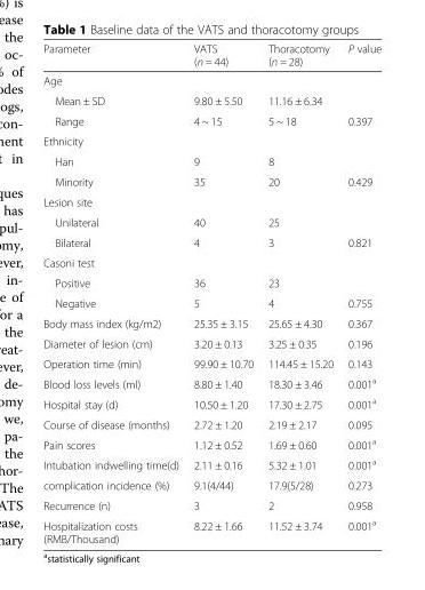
<table><thead><tr><td>Parameter</td><td>VATS (n = 44)</td><td>Thoracotomy (n = 28)</td><td>P value</td></tr></thead><tbody><tr><td colspan="4">Age</td></tr><tr><td>Mean ± SD</td><td>9.80 ± 5.50</td><td>11.16 ± 6.34</td><td></td></tr><tr><td>Range</td><td>4 ~ 15</td><td>5 ~ 18</td><td>0.397</td></tr><tr><td colspan="4">Ethnicity</td></tr><tr><td>Han</td><td>9</td><td>8</td><td></td></tr><tr><td>Minority</td><td>35</td><td>20</td><td>0.429</td></tr><tr><td colspan="4">Lesion site</td></tr><tr><td>Unilateral</td><td>40</td><td>25</td><td></td></tr><tr><td>Bilateral</td><td>4</td><td>3</td><td>0.821</td></tr><tr><td colspan="4">Casoni test</td></tr><tr><td>Positive</td><td>36</td><td>23</td><td></td></tr><tr><td>Negative</td><td>5</td><td>4</td><td>0.755</td></tr><tr><td>Body mass index (kg/m2)</td><td>25.35 ± 3.15</td><td>25.65 ± 4.30</td><td>0.367</td></tr><tr><td>Diameter of lesion (cm)</td><td>3.20 ± 0.13</td><td>3.25 ± 0.35</td><td>0.196</td></tr><tr><td>Operation time (min)</td><td>99.90 ± 10.70</td><td>114.45 ± 15.20</td><td>0.143</td></tr><tr><td>Blood loss levels (ml)</td><td>8.80 ± 1.40</td><td>18.30 ± 3.46</td><td>0.001<sup>a</sup></td></tr><tr><td>Hospital stay (d)</td><td>10.50 ± 1.20</td><td>17.30 ± 2.75</td><td>0.001<sup>a</sup></td></tr><tr><td>Course of disease (months)</td><td>2.72 ± 1.20</td><td>2.19 ± 2.17</td><td>0.095</td></tr><tr><td>Pain scores</td><td>1.12 ± 0.52</td><td>1.69 ± 0.60</td><td>0.001<sup>a</sup></td></tr><tr><td>Intubation indwelling time(d)</td><td>2.11 ± 0.16</td><td>5.32 ± 1.01</td><td>0.001<sup>a</sup></td></tr><tr><td>complication incidence (%)</td><td>9.1(4/44)</td><td>17.9(5/28)</td><td>0.273</td></tr><tr><td>Recurrence (n)</td><td>3</td><td>2</td><td>0.958</td></tr><tr><td>Hospitalization costs (RMB/Thousand)</td><td>8.22 ± 1.66</td><td>11.52 ± 3.74</td><td>0.001<sup>a</sup></td></tr></tbody></table>